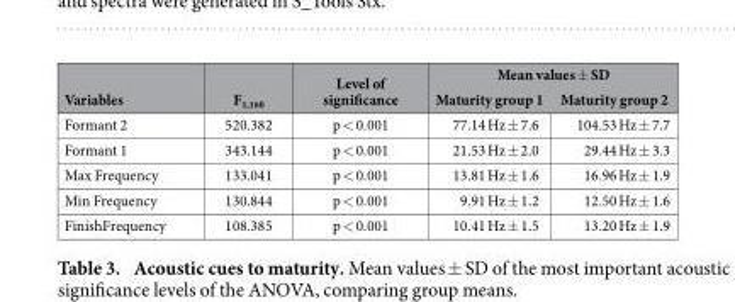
<table><thead><tr><td rowspan="2">Variables</td><td rowspan="2">F<sub>1,160</sub></td><td rowspan="2">Level of significance</td><td colspan="2">Mean values ± SD</td></tr><tr><td>Maturity group 1</td><td>Maturity group 2</td></tr></thead><tbody><tr><td>Formant 2</td><td>520.382</td><td>p &lt; 0.001</td><td>77.14 Hz ± 7.6</td><td>104.53 Hz ± 7.7</td></tr><tr><td>Formant 1</td><td>343.144</td><td>p &lt; 0.001</td><td>21.53 Hz ± 2.0</td><td>29.44 Hz ± 3.3</td></tr><tr><td>Max Frequency</td><td>133.041</td><td>p &lt; 0.001</td><td>13.81 Hz ± 1.6</td><td>16.96 Hz ± 1.9</td></tr><tr><td>Min Frequency</td><td>130.844</td><td>p &lt; 0.001</td><td>9.91 Hz ± 1.2</td><td>12.50 Hz ± 1.6</td></tr><tr><td>FinishFrequency</td><td>108.385</td><td>p &lt; 0.001</td><td>10.41 Hz ± 1.5</td><td>13.20 Hz ± 1.9</td></tr></tbody></table>